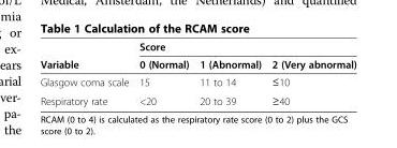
<table><thead><tr><td rowspan="2">Variable</td><td colspan="3">Score</td></tr><tr><td>0 (Normal)</td><td>1 (Abnormal)</td><td>2 (Very abnormal)</td></tr></thead><tbody><tr><td>Glasgow coma scale</td><td>15</td><td>11 to 14</td><td>≤10</td></tr><tr><td>Respiratory rate</td><td>&lt;20</td><td>20 to 39</td><td>≥40</td></tr></tbody></table>